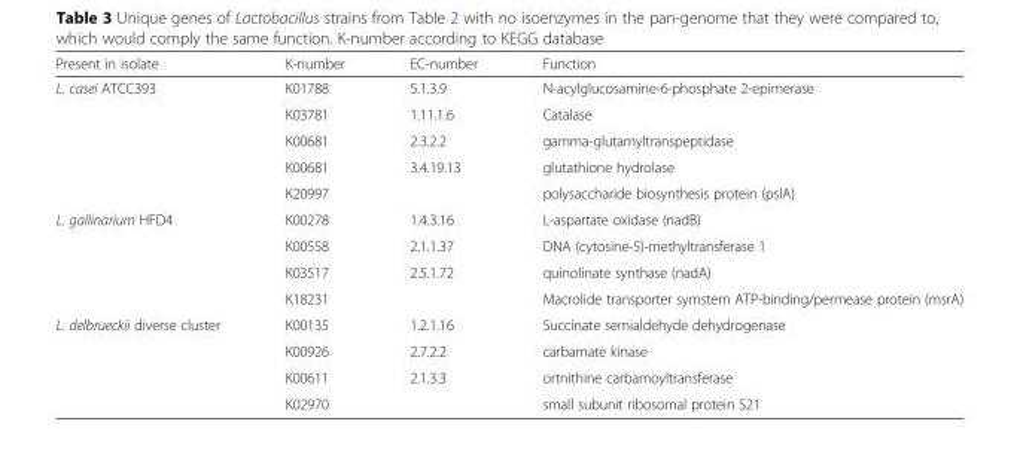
<table><thead><tr><td>Present in isolate</td><td>K-number</td><td>EC-number</td><td>Function</td></tr></thead><tbody><tr><td rowspan="5">L. casei ATCC393</td><td>K01788</td><td>5.1.3.9</td><td>N-acylglucosamine-6-phosphate 2-epimerase</td></tr><tr><td>K03781</td><td>1.11.1.6</td><td>Catalase</td></tr><tr><td>K00681</td><td>2.3.2.2</td><td>gamma-glutamyltranspeptidase</td></tr><tr><td>K00681</td><td>3.4.19.13</td><td>glutathione hydrolase</td></tr><tr><td>K20997</td><td></td><td>polysaccharide biosynthesis protein (pslA)</td></tr><tr><td rowspan="4">L. gallinarium HFD4</td><td>K00278</td><td>1.4.3.16</td><td>L-aspartate oxidase (nadB)</td></tr><tr><td>K00558</td><td>2.1.1.37</td><td>DNA (cytosine-5)-methyltransferase 1</td></tr><tr><td>K03517</td><td>2.5.1.72</td><td>quinolinate synthase (nadA)</td></tr><tr><td>K18231</td><td></td><td>Macrolide transporter symstem ATP-binding/permease protein (msrA)</td></tr><tr><td rowspan="4">L. delbrueckii diverse cluster</td><td>K00135</td><td>1.2.1.16</td><td>Succinate semialdehyde dehydrogenase</td></tr><tr><td>K00926</td><td>2.7.2.2</td><td>carbamate kinase</td></tr><tr><td>K00611</td><td>2.1.3.3</td><td>ortnithine carbamoyltransferase</td></tr><tr><td>K02970</td><td></td><td>small subunit ribosomal protein S21</td></tr></tbody></table>